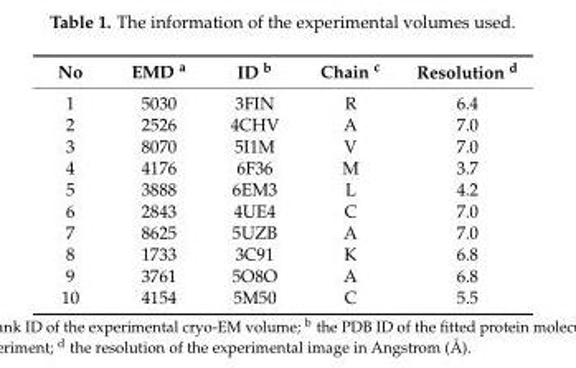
<table><thead><tr><td>No</td><td>EMD <sup>a</sup></td><td>ID <sup>b</sup></td><td>Chain <sup>c</sup></td><td>Resolution <sup>d</sup></td></tr></thead><tbody><tr><td>1</td><td>5030</td><td>3FIN</td><td>R</td><td>6.4</td></tr><tr><td>2</td><td>2526</td><td>4CHV</td><td>A</td><td>7.0</td></tr><tr><td>3</td><td>8070</td><td>5I1M</td><td>V</td><td>7.0</td></tr><tr><td>4</td><td>4176</td><td>6F36</td><td>M</td><td>3.7</td></tr><tr><td>5</td><td>3888</td><td>6EM3</td><td>L</td><td>4.2</td></tr><tr><td>6</td><td>2843</td><td>4UE4</td><td>C</td><td>7.0</td></tr><tr><td>7</td><td>8625</td><td>5UZB</td><td>A</td><td>7.0</td></tr><tr><td>8</td><td>1733</td><td>3C91</td><td>K</td><td>6.8</td></tr><tr><td>9</td><td>3761</td><td>5O8O</td><td>A</td><td>6.8</td></tr><tr><td>10</td><td>4154</td><td>5M50</td><td>C</td><td>5.5</td></tr></tbody></table>